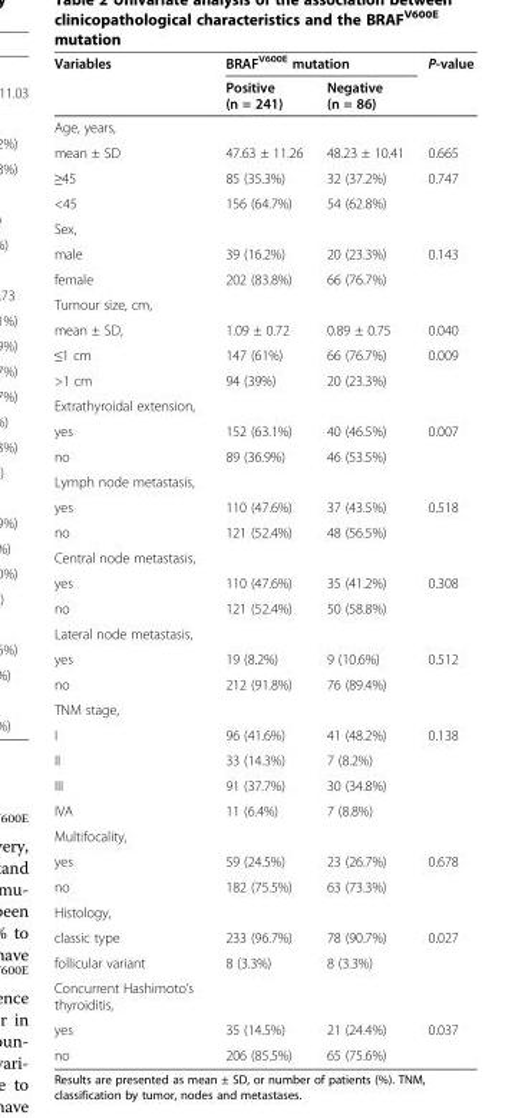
<table><thead><tr><td rowspan="2">Variables</td><td colspan="2">BRAF<sup>V600E</sup> mutation</td><td rowspan="2">P-value</td></tr><tr><td>Positive (n = 241)</td><td>Negative (n = 86)</td></tr></thead><tbody><tr><td colspan="4">Age, years,</td></tr><tr><td>mean ± SD</td><td>47.63 ± 11.26</td><td>48.23 ± 10.41</td><td>0.665</td></tr><tr><td>≥45</td><td>85 (35.3%)</td><td>32 (37.2%)</td><td>0.747</td></tr><tr><td>&lt;45</td><td>156 (64.7%)</td><td>54 (62.8%)</td><td></td></tr><tr><td colspan="4">Sex,</td></tr><tr><td>male</td><td>39 (16.2%)</td><td>20 (23.3%)</td><td>0.143</td></tr><tr><td>female</td><td>202 (83.8%)</td><td>66 (76.7%)</td><td></td></tr><tr><td colspan="4">Tumour size, cm,</td></tr><tr><td>mean ± SD,</td><td>1.09 ± 0.72</td><td>0.89 ± 0.75</td><td>0.040</td></tr><tr><td>≤1 cm</td><td>147 (61%)</td><td>66 (76.7%)</td><td>0.009</td></tr><tr><td>&gt;1 cm</td><td>94 (39%)</td><td>20 (23.3%)</td><td></td></tr><tr><td colspan="4">Extrathyroidal extension,</td></tr><tr><td>yes</td><td>152 (63.1%)</td><td>40 (46.5%)</td><td>0.007</td></tr><tr><td>no</td><td>89 (36.9%)</td><td>46 (53.5%)</td><td></td></tr><tr><td colspan="4">Lymph node metastasis,</td></tr><tr><td>yes</td><td>110 (47.6%)</td><td>37 (43.5%)</td><td>0.518</td></tr><tr><td>no</td><td>121 (52.4%)</td><td>48 (56.5%)</td><td></td></tr><tr><td colspan="4">Central node metastasis,</td></tr><tr><td>yes</td><td>110 (47.6%)</td><td>35 (41.2%)</td><td>0.308</td></tr><tr><td>no</td><td>121 (52.4%)</td><td>50 (58.8%)</td><td></td></tr><tr><td colspan="4">Lateral node metastasis,</td></tr><tr><td>yes</td><td>19 (8.2%)</td><td>9 (10.6%)</td><td>0.512</td></tr><tr><td>no</td><td>212 (91.8%)</td><td>76 (89.4%)</td><td></td></tr><tr><td colspan="4">TNM stage,</td></tr><tr><td>I</td><td>96 (41.6%)</td><td>41 (48.2%)</td><td>0.138</td></tr><tr><td>II</td><td>33 (14.3%)</td><td>7 (8.2%)</td><td></td></tr><tr><td>III</td><td>91 (37.7%)</td><td>30 (34.8%)</td><td></td></tr><tr><td>IVA</td><td>11 (6.4%)</td><td>7 (8.8%)</td><td></td></tr><tr><td colspan="4">Multifocality,</td></tr><tr><td>yes</td><td>59 (24.5%)</td><td>23 (26.7%)</td><td>0.678</td></tr><tr><td>no</td><td>182 (75.5%)</td><td>63 (73.3%)</td><td></td></tr><tr><td colspan="4">Histology,</td></tr><tr><td>classic type</td><td>233 (96.7%)</td><td>78 (90.7%)</td><td>0.027</td></tr><tr><td>follicular variant</td><td>8 (3.3%)</td><td>8 (3.3%)</td><td></td></tr><tr><td colspan="4">Concurrent Hashimoto’s thyroiditis,</td></tr><tr><td>yes</td><td>35 (14.5%)</td><td>21 (24.4%)</td><td>0.037</td></tr><tr><td>no</td><td>206 (85.5%)</td><td>65 (75.6%)</td><td></td></tr></tbody></table>